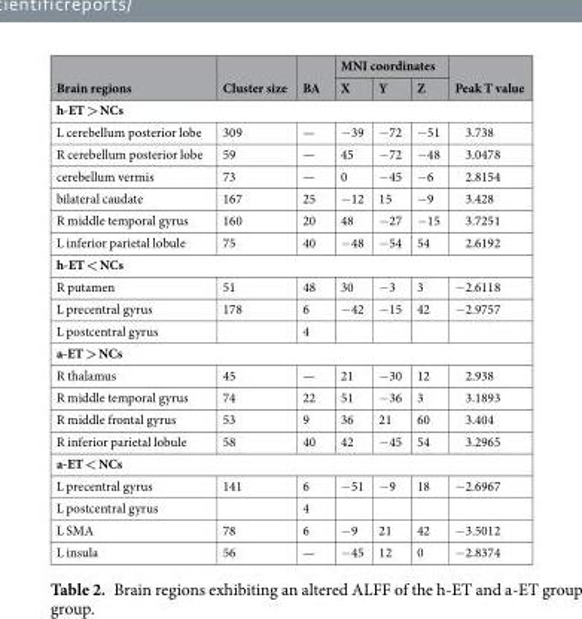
<table><thead><tr><td rowspan="2">Brain regions</td><td rowspan="2">Cluster size</td><td rowspan="2">BA</td><td colspan="3">MNI coordinates</td><td rowspan="2">Peak T value</td></tr><tr><td>X</td><td>Y</td><td>Z</td></tr></thead><tbody><tr><td colspan="7">h-ET &gt; NCs</td></tr><tr><td>L cerebellum posterior lobe</td><td>309</td><td>—</td><td>−39</td><td>−72</td><td>−51</td><td>3.738</td></tr><tr><td>R cerebellum posterior lobe</td><td>59</td><td>—</td><td>45</td><td>−72</td><td>−48</td><td>3.0478</td></tr><tr><td>cerebellum vermis</td><td>73</td><td>—</td><td>0</td><td>−45</td><td>−6</td><td>2.8154</td></tr><tr><td>bilateral caudate</td><td>167</td><td>25</td><td>−12</td><td>15</td><td>−9</td><td>3.428</td></tr><tr><td>R middle temporal gyrus</td><td>160</td><td>20</td><td>48</td><td>−27</td><td>−15</td><td>3.7251</td></tr><tr><td>L inferior parietal lobule</td><td>75</td><td>40</td><td>−48</td><td>−54</td><td>54</td><td>2.6192</td></tr><tr><td colspan="7">h-ET &lt; NCs</td></tr><tr><td>R putamen</td><td>51</td><td>48</td><td>30</td><td>−3</td><td>3</td><td>−2.6118</td></tr><tr><td>L precentral gyrus</td><td>178</td><td>6</td><td>−42</td><td>−15</td><td>42</td><td>−2.9757</td></tr><tr><td>L postcentral gyrus</td><td></td><td>4</td><td></td><td></td><td></td><td></td></tr><tr><td colspan="7">a-ET &gt; NCs</td></tr><tr><td>R thalamus</td><td>45</td><td>—</td><td>21</td><td>−30</td><td>12</td><td>2.938</td></tr><tr><td>R middle temporal gyrus</td><td>74</td><td>22</td><td>51</td><td>−36</td><td>3</td><td>3.1893</td></tr><tr><td>R middle frontal gyrus</td><td>53</td><td>9</td><td>36</td><td>21</td><td>60</td><td>3.404</td></tr><tr><td>R inferior parietal lobule</td><td>58</td><td>40</td><td>42</td><td>−45</td><td>54</td><td>3.2965</td></tr><tr><td colspan="7">a-ET &lt; NCs</td></tr><tr><td>L precentral gyrus</td><td>141</td><td>6</td><td>−51</td><td>−9</td><td>18</td><td>−2.6967</td></tr><tr><td>L postcentral gyrus</td><td></td><td>4</td><td></td><td></td><td></td><td></td></tr><tr><td>L SMA</td><td>78</td><td>6</td><td>−9</td><td>21</td><td>42</td><td>−3.5012</td></tr><tr><td>L insula</td><td>56</td><td>—</td><td>−45</td><td>12</td><td>0</td><td>−2.8374</td></tr></tbody></table>